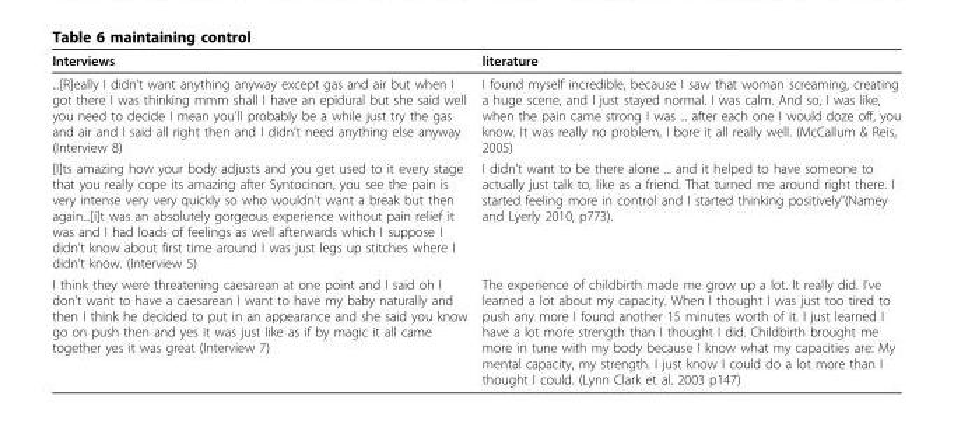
<table><thead><tr><td>Interviews</td><td>literature</td></tr></thead><tbody><tr><td>...[R]eally I didn’t want anything anyway except gas and air but when I got there I was thinking mmm shall I have an epidural but she said well you need to decide I mean you’ll probably be a while just try the gas and air and I said all right then and I didn’t need anything else anyway (Interview 8)</td><td>I found myself incredible, because I saw that woman screaming, creating a huge scene, and I just stayed normal. I was calm. And so, I was like, when the pain came strong I was ... after each one I would doze off, you know. It was really no problem, I bore it all really well. (McCallum &amp; Reis, 2005)</td></tr><tr><td>[I]ts amazing how your body adjusts and you get used to it every stage that you really cope its amazing after Syntocinon, you see the pain is very intense very very quickly so who wouldn’t want a break but then again...[i]t was an absolutely gorgeous experience without pain relief it was and I had loads of feelings as well afterwards which I suppose I didn’t know about first time around I was just legs up stitches where I didn’t know. (Interview 5)</td><td>I didn’t want to be there alone ... and it helped to have someone to actually just talk to, like as a friend. That turned me around right there. I started feeling more in control and I started thinking positively&quot;(Namey and Lyerly 2010, p773).</td></tr><tr><td>I think they were threatening caesarean at one point and I said oh I don’t want to have a caesarean I want to have my baby naturally and then I think he decided to put in an appearance and she said you know go on push then and yes it was just like as if by magic it all came together yes it was great (Interview 7)</td><td>The experience of childbirth made me grow up a lot. It really did. I’ve learned a lot about my capacity. When I thought I was just too tired to push any more I found another 15 minutes worth of it. I just learned I have a lot more strength than I thought I did. Childbirth brought me more in tune with my body because I know what my capacities are: My mental capacity, my strength. I just know I could do a lot more than I thought I could. (Lynn Clark et al. 2003 p147)</td></tr></tbody></table>